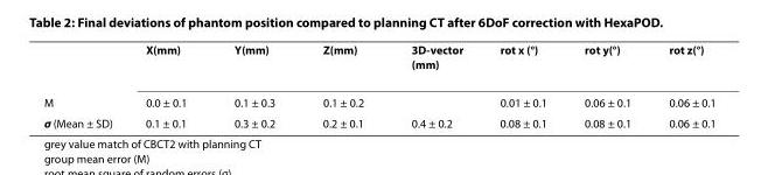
<table><thead><tr><td></td><td>X(mm)</td><td>Y(mm)</td><td>Z(mm)</td><td>3D-vector (mm)</td><td>rot x (°)</td><td>rot y(°)</td><td>rot z(°)</td></tr></thead><tbody><tr><td>M</td><td>0.0 ± 0.1</td><td>0.1 ± 0.3</td><td>0.1 ± 0.2</td><td></td><td>0.01 ± 0.1</td><td>0.06 ± 0.1</td><td>0.06 ± 0.1</td></tr><tr><td>σ (Mean ± SD)</td><td>0.1 ± 0.1</td><td>0.3 ± 0.2</td><td>0.2 ± 0.1</td><td>0.4 ± 0.2</td><td>0.08 ± 0.1</td><td>0.08 ± 0.1</td><td>0.06 ± 0.1</td></tr></tbody></table>